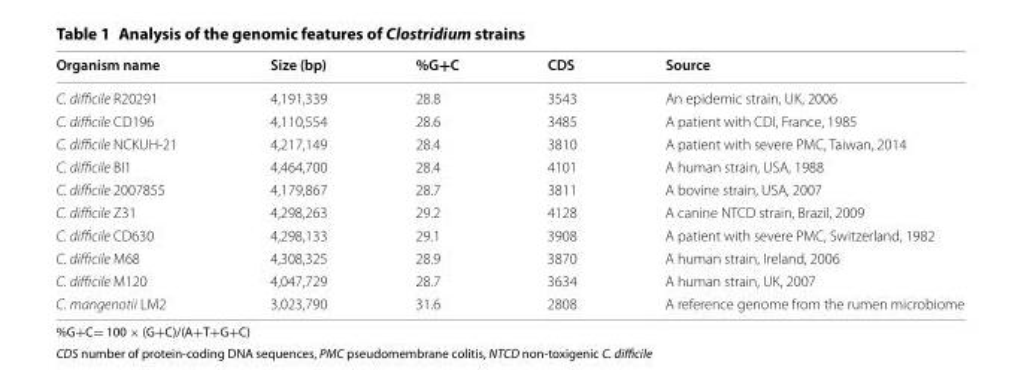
<table><thead><tr><td>Organism name</td><td>Size (bp)</td><td>%G+C</td><td>CDS</td><td>Source</td></tr></thead><tbody><tr><td>C. difficile R20291</td><td>4,191,339</td><td>28.8</td><td>3543</td><td>An epidemic strain, UK, 2006</td></tr><tr><td>C. difficile CD196</td><td>4,110,554</td><td>28.6</td><td>3485</td><td>A patient with CDI, France, 1985</td></tr><tr><td>C. difficile NCKUH‑21</td><td>4,217,149</td><td>28.4</td><td>3810</td><td>A patient with severe PMC, Taiwan, 2014</td></tr><tr><td>C. difficile BI1</td><td>4,464,700</td><td>28.4</td><td>4101</td><td>A human strain, USA, 1988</td></tr><tr><td>C. difficile 2007855</td><td>4,179,867</td><td>28.7</td><td>3811</td><td>A bovine strain, USA, 2007</td></tr><tr><td>C. difficile Z31</td><td>4,298,263</td><td>29.2</td><td>4128</td><td>A canine NTCD strain, Brazil, 2009</td></tr><tr><td>C. difficile CD630</td><td>4,298,133</td><td>29.1</td><td>3908</td><td>A patient with severe PMC, Switzerland, 1982</td></tr><tr><td>C. difficile M68</td><td>4,308,325</td><td>28.9</td><td>3870</td><td>A human strain, Ireland, 2006</td></tr><tr><td>C. difficile M120</td><td>4,047,729</td><td>28.7</td><td>3634</td><td>A human strain, UK, 2007</td></tr><tr><td>C. mangenotii LM2</td><td>3,023,790</td><td>31.6</td><td>2808</td><td>A reference genome from the rumen microbiome</td></tr></tbody></table>